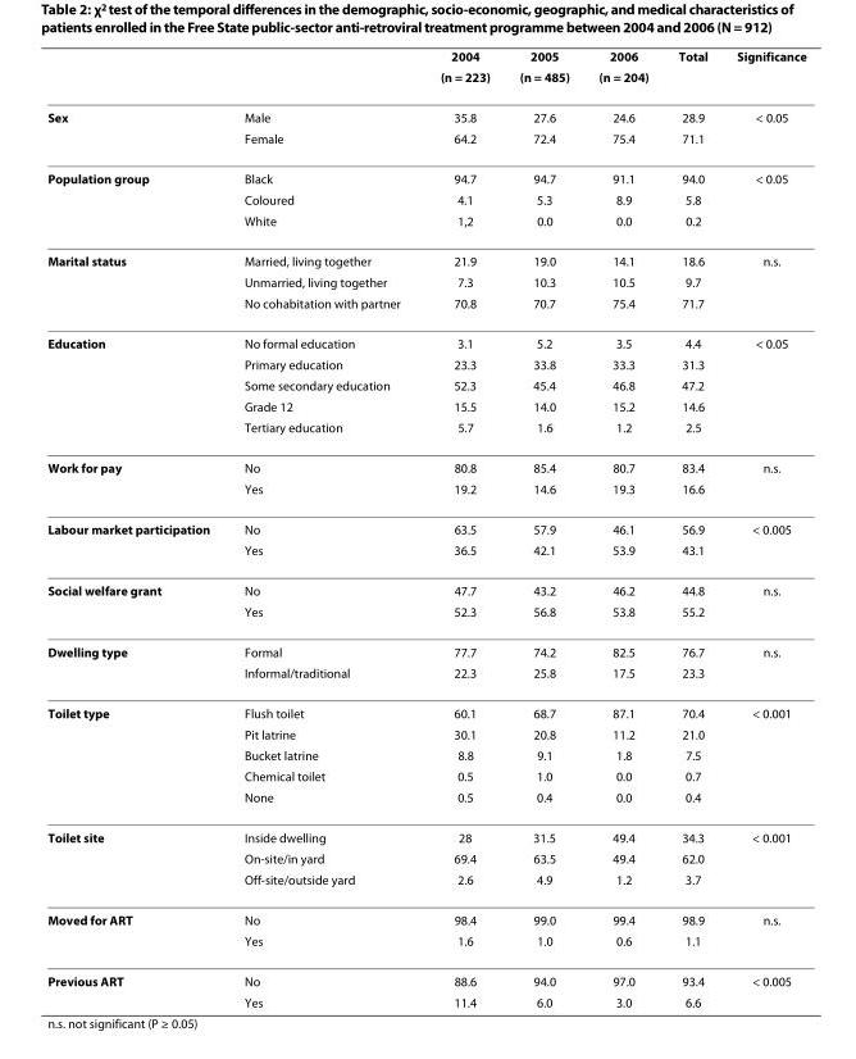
<table><thead><tr><td rowspan="2"></td><td rowspan="2"></td><td rowspan="2">2004 (n = 223)</td><td rowspan="2">2005 (n = 485)</td><td rowspan="2">2006 (n = 204)</td><td rowspan="2">Total</td><td rowspan="2">Significance</td></tr><tr></tr></thead><tbody><tr><td rowspan="2">Sex</td><td>Male</td><td>35.8</td><td>27.6</td><td>24.6</td><td>28.9</td><td>&lt; 0.05</td></tr><tr><td>Female</td><td>64.2</td><td>72.4</td><td>75.4</td><td>71.1</td><td></td></tr><tr><td rowspan="3">Population group</td><td>Black</td><td>94.7</td><td>94.7</td><td>91.1</td><td>94.0</td><td>&lt; 0.05</td></tr><tr><td>Coloured</td><td>4.1</td><td>5.3</td><td>8.9</td><td>5.8</td><td></td></tr><tr><td>White</td><td>1,2</td><td>0.0</td><td>0.0</td><td>0.2</td><td></td></tr><tr><td rowspan="3">Marital status</td><td>Married, living together</td><td>21.9</td><td>19.0</td><td>14.1</td><td>18.6</td><td>n.s.</td></tr><tr><td>Unmarried, living together</td><td>7.3</td><td>10.3</td><td>10.5</td><td>9.7</td><td></td></tr><tr><td>No cohabitation with partner</td><td>70.8</td><td>70.7</td><td>75.4</td><td>71.7</td><td></td></tr><tr><td rowspan="5">Education</td><td>No formal education</td><td>3.1</td><td>5.2</td><td>3.5</td><td>4.4</td><td>&lt; 0.05</td></tr><tr><td>Primary education</td><td>23.3</td><td>33.8</td><td>33.3</td><td>31.3</td><td></td></tr><tr><td>Some secondary education</td><td>52.3</td><td>45.4</td><td>46.8</td><td>47.2</td><td></td></tr><tr><td>Grade 12</td><td>15.5</td><td>14.0</td><td>15.2</td><td>14.6</td><td></td></tr><tr><td>Tertiary education</td><td>5.7</td><td>1.6</td><td>1.2</td><td>2.5</td><td></td></tr><tr><td rowspan="2">Work for pay</td><td>No</td><td>80.8</td><td>85.4</td><td>80.7</td><td>83.4</td><td>n.s.</td></tr><tr><td>Yes</td><td>19.2</td><td>14.6</td><td>19.3</td><td>16.6</td><td></td></tr><tr><td rowspan="2">Labour market participation</td><td>No</td><td>63.5</td><td>57.9</td><td>46.1</td><td>56.9</td><td>&lt; 0.005</td></tr><tr><td>Yes</td><td>36.5</td><td>42.1</td><td>53.9</td><td>43.1</td><td></td></tr><tr><td rowspan="2">Social welfare grant</td><td>No</td><td>47.7</td><td>43.2</td><td>46.2</td><td>44.8</td><td>n.s.</td></tr><tr><td>Yes</td><td>52.3</td><td>56.8</td><td>53.8</td><td>55.2</td><td></td></tr><tr><td rowspan="2">Dwelling type</td><td>Formal</td><td>77.7</td><td>74.2</td><td>82.5</td><td>76.7</td><td>n.s.</td></tr><tr><td>Informal/traditional</td><td>22.3</td><td>25.8</td><td>17.5</td><td>23.3</td><td></td></tr><tr><td rowspan="5">Toilet type</td><td>Flush toilet</td><td>60.1</td><td>68.7</td><td>87.1</td><td>70.4</td><td>&lt; 0.001</td></tr><tr><td>Pit latrine</td><td>30.1</td><td>20.8</td><td>11.2</td><td>21.0</td><td></td></tr><tr><td>Bucket latrine</td><td>8.8</td><td>9.1</td><td>1.8</td><td>7.5</td><td></td></tr><tr><td>Chemical toilet</td><td>0.5</td><td>1.0</td><td>0.0</td><td>0.7</td><td></td></tr><tr><td>None</td><td>0.5</td><td>0.4</td><td>0.0</td><td>0.4</td><td></td></tr><tr><td rowspan="3">Toilet site</td><td>Inside dwelling</td><td>28</td><td>31.5</td><td>49.4</td><td>34.3</td><td>&lt; 0.001</td></tr><tr><td>On-site/in yard</td><td>69.4</td><td>63.5</td><td>49.4</td><td>62.0</td><td></td></tr><tr><td>Off-site/outside yard</td><td>2.6</td><td>4.9</td><td>1.2</td><td>3.7</td><td></td></tr><tr><td rowspan="2">Moved for ART</td><td>No</td><td>98.4</td><td>99.0</td><td>99.4</td><td>98.9</td><td>n.s.</td></tr><tr><td>Yes</td><td>1.6</td><td>1.0</td><td>0.6</td><td>1.1</td><td></td></tr><tr><td rowspan="2">Previous ART</td><td>No</td><td>88.6</td><td>94.0</td><td>97.0</td><td>93.4</td><td>&lt; 0.005</td></tr><tr><td>Yes</td><td>11.4</td><td>6.0</td><td>3.0</td><td>6.6</td><td></td></tr></tbody></table>